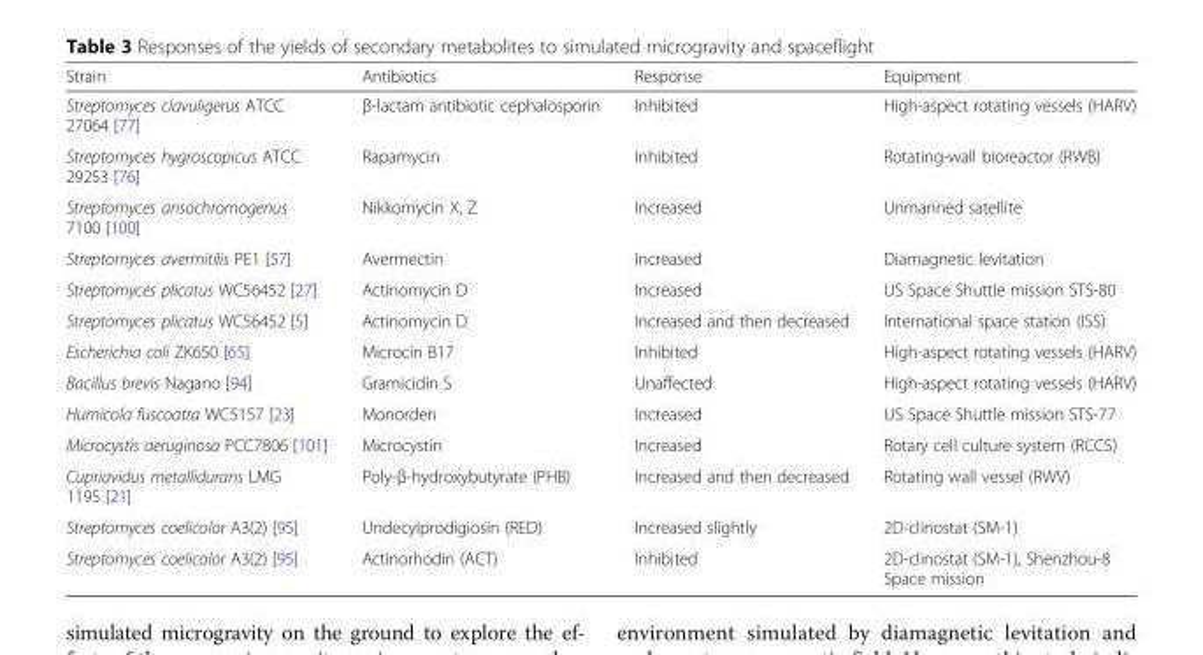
<table><thead><tr><td>Strain</td><td>Antibiotics</td><td>Response</td><td>Equipment</td></tr></thead><tbody><tr><td>Streptomyces clavuligerus ATCC 27064 [77]</td><td>β-lactam antibiotic cephalosporin</td><td>Inhibited</td><td>High-aspect rotating vessels (HARV)</td></tr><tr><td>Streptomyces hygroscopicus ATCC 29253 [76]</td><td>Rapamycin</td><td>Inhibited</td><td>Rotating-wall bioreactor (RWB)</td></tr><tr><td>Streptomyces ansochromogenus 7100 [100]</td><td>Nikkomycin X, Z</td><td>Increased</td><td>Unmanned satellite</td></tr><tr><td>Streptomyces avermitilis PE1 [57]</td><td>Avermectin</td><td>Increased</td><td>Diamagnetic levitation</td></tr><tr><td>Streptomyces plicatus WC56452 [27]</td><td>Actinomycin D</td><td>Increased</td><td>US Space Shuttle mission STS-80</td></tr><tr><td>Streptomyces plicatus WC56452 [5]</td><td>Actinomycin D</td><td>Increased and then decreased</td><td>International space station (ISS)</td></tr><tr><td>Escherichia coli ZK650 [65]</td><td>Microcin B17</td><td>Inhibited</td><td>High-aspect rotating vessels (HARV)</td></tr><tr><td>Bacillus brevis Nagano [94]</td><td>Gramicidin S</td><td>Unaffected</td><td>High-aspect rotating vessels (HARV)</td></tr><tr><td>Humicola fuscoatra WC5157 [23]</td><td>Monorden</td><td>Increased</td><td>US Space Shuttle mission STS-77</td></tr><tr><td>Microcystis aeruginosa PCC7806 [101]</td><td>Microcystin</td><td>Increased</td><td>Rotary cell culture system (RCCS)</td></tr><tr><td>Cupriavidus metallidurans LMG 1195 [21]</td><td>Poly-β-hydroxybutyrate (PHB)</td><td>Increased and then decreased</td><td>Rotating wall vessel (RWV)</td></tr><tr><td>Streptomyces coelicolor A3(2) [95]</td><td>Undecylprodigiosin (RED)</td><td>Increased slightly</td><td>2D-clinostat (SM-1)</td></tr><tr><td>Streptomyces coelicolor A3(2) [95]</td><td>Actinorhodin (ACT)</td><td>Inhibited</td><td>2D-clinostat (SM-1), Shenzhou-8 Space mission</td></tr></tbody></table>